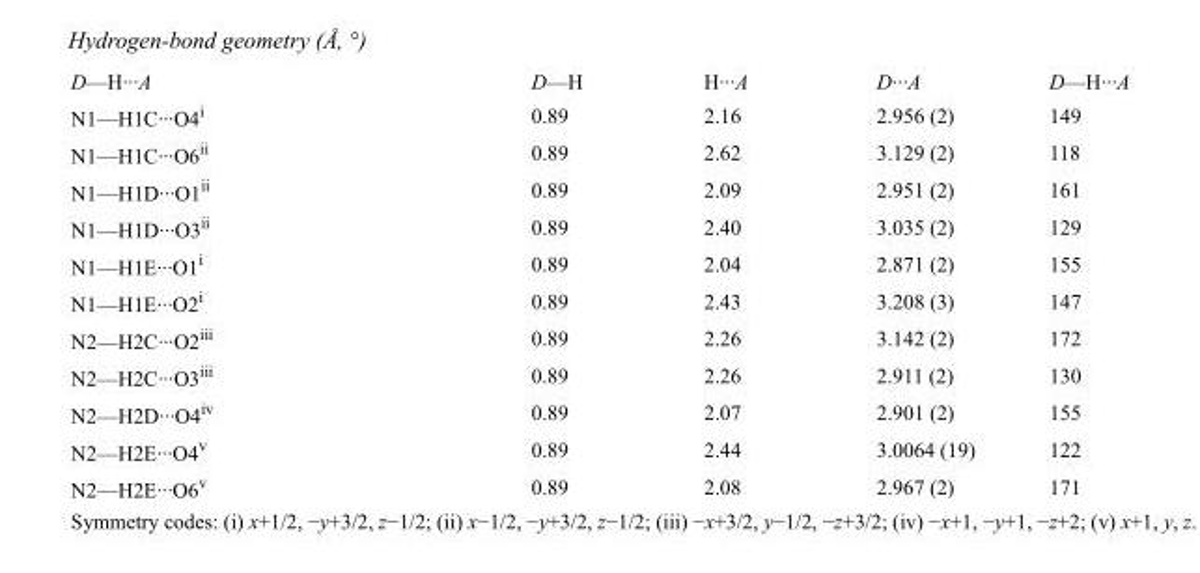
<table><tbody><tr><td>D—H···A</td><td>D—H</td><td>H···A</td><td>D···A</td><td>D—H···A</td></tr><tr><td>N1—H1C···O4<sup>i</sup></td><td>0.89</td><td>2.16</td><td>2.956 (2)</td><td>149</td></tr><tr><td>N1—H1C···O6<sup>ii</sup></td><td>0.89</td><td>2.62</td><td>3.129 (2)</td><td>118</td></tr><tr><td>N1—H1D···O1<sup>ii</sup></td><td>0.89</td><td>2.09</td><td>2.951 (2)</td><td>161</td></tr><tr><td>N1—H1D···O3<sup>ii</sup></td><td>0.89</td><td>2.40</td><td>3.035 (2)</td><td>129</td></tr><tr><td>N1—H1E···O1<sup>i</sup></td><td>0.89</td><td>2.04</td><td>2.871 (2)</td><td>155</td></tr><tr><td>N1—H1E···O2<sup>i</sup></td><td>0.89</td><td>2.43</td><td>3.208 (3)</td><td>147</td></tr><tr><td>N2—H2C···O2<sup>iii</sup></td><td>0.89</td><td>2.26</td><td>3.142 (2)</td><td>172</td></tr><tr><td>N2—H2C···O3<sup>iii</sup></td><td>0.89</td><td>2.26</td><td>2.911 (2)</td><td>130</td></tr><tr><td>N2—H2D···O4<sup>iv</sup></td><td>0.89</td><td>2.07</td><td>2.901 (2)</td><td>155</td></tr><tr><td>N2—H2E···O4<sup>v</sup></td><td>0.89</td><td>2.44</td><td>3.0064 (19)</td><td>122</td></tr><tr><td>N2—H2E···O6<sup>v</sup></td><td>0.89</td><td>2.08</td><td>2.967 (2)</td><td>171</td></tr></tbody></table>